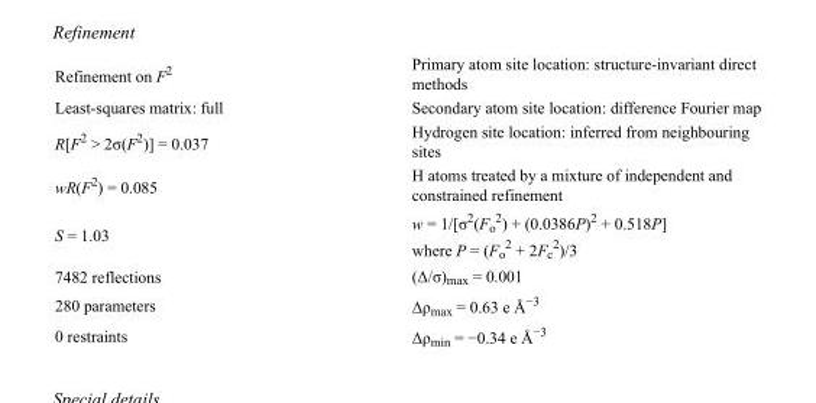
<table><tbody><tr><td>Refinement on F<sup>2</sup></td><td>Primary atom site location: structure-invariant direct methods</td></tr><tr><td>Least-squares matrix: full</td><td>Secondary atom site location: difference Fourier map</td></tr><tr><td>R[F<sup>2</sup> &gt; 2σ(F<sup>2</sup>)] = 0.037</td><td>Hydrogen site location: inferred from neighbouring sites</td></tr><tr><td>wR(F<sup>2</sup>) = 0.085</td><td>H atoms treated by a mixture of independent and constrained refinement</td></tr><tr><td>S = 1.03</td><td>w = 1/[σ<sup>2</sup>(F<sub>o</sub> <sup>2</sup>) + (0.0386P)<sup>2</sup> + 0.518P] where P = (F<sub>o</sub> <sup>2</sup> + 2F<sub>c</sub> <sup>2</sup>)/3</td></tr><tr><td>7482 reflections</td><td>(Δ/σ)<sub>max</sub> = 0.001</td></tr><tr><td>280 parameters</td><td>Δρ<sub>max</sub> = 0.63 e Å<sup>−3</sup></td></tr><tr><td>0 restraints</td><td>Δρ<sub>min</sub> = −0.34 e Å<sup>−3</sup></td></tr></tbody></table>